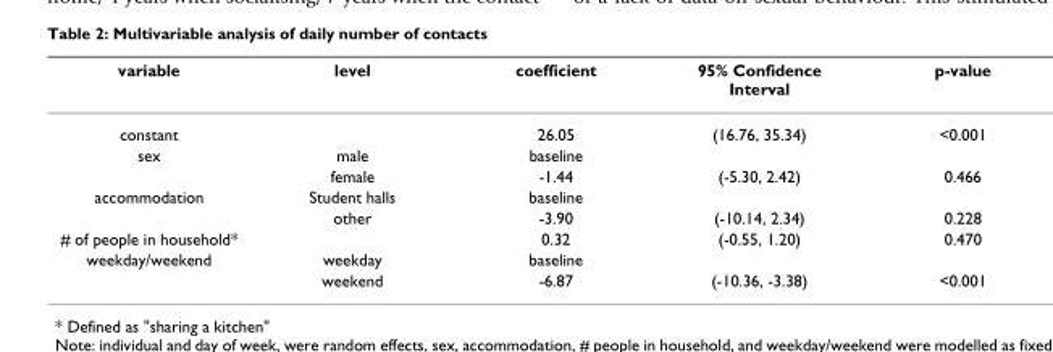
<table><thead><tr><td>variable</td><td>level</td><td>coefficient</td><td>95% Confidence Interval</td><td>p-value</td></tr></thead><tbody><tr><td>constant</td><td></td><td>26.05</td><td>(16.76, 35.34)</td><td>&lt;0.001</td></tr><tr><td rowspan="2">sex</td><td>male</td><td>baseline</td><td></td><td></td></tr><tr><td>female</td><td>-1.44</td><td>(-5.30, 2.42)</td><td>0.466</td></tr><tr><td rowspan="2">accommodation</td><td>Student halls</td><td>baseline</td><td></td><td></td></tr><tr><td>other</td><td>-3.90</td><td>(-10.14, 2.34)</td><td>0.228</td></tr><tr><td># of people in household*</td><td></td><td>0.32</td><td>(-0.55, 1.20)</td><td>0.470</td></tr><tr><td rowspan="2">weekday/weekend</td><td>weekday</td><td>baseline</td><td></td><td></td></tr><tr><td>weekend</td><td>-6.87</td><td>(-10.36, -3.38)</td><td>&lt;0.001</td></tr></tbody></table>